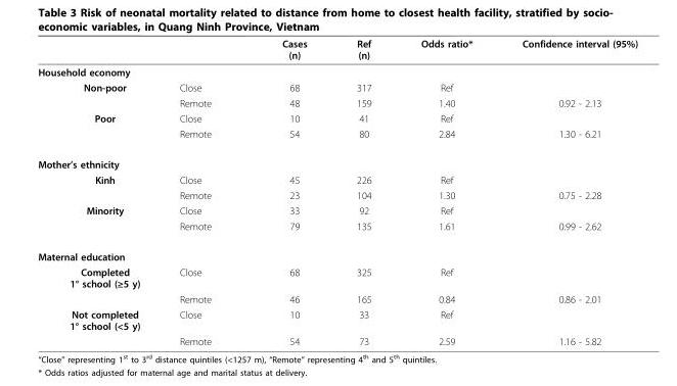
<table><thead><tr><td></td><td></td><td>Cases (n)</td><td>Ref (n)</td><td>Odds ratio*</td><td>Confidence interval (95%)</td></tr></thead><tbody><tr><td colspan="6">Household economy</td></tr><tr><td rowspan="2">Non-poor</td><td>Close</td><td>68</td><td>317</td><td>Ref</td><td></td></tr><tr><td>Remote</td><td>48</td><td>159</td><td>1.40</td><td>0.92 - 2.13</td></tr><tr><td rowspan="2">Poor</td><td>Close</td><td>10</td><td>41</td><td>Ref</td><td></td></tr><tr><td>Remote</td><td>54</td><td>80</td><td>2.84</td><td>1.30 - 6.21</td></tr><tr><td colspan="6">Mother’s ethnicity</td></tr><tr><td rowspan="2">Kinh</td><td>Close</td><td>45</td><td>226</td><td>Ref</td><td></td></tr><tr><td>Remote</td><td>23</td><td>104</td><td>1.30</td><td>0.75 - 2.28</td></tr><tr><td rowspan="2">Minority</td><td>Close</td><td>33</td><td>92</td><td>Ref</td><td></td></tr><tr><td>Remote</td><td>79</td><td>135</td><td>1.61</td><td>0.99 - 2.62</td></tr><tr><td colspan="6">Maternal education</td></tr><tr><td rowspan="2">Completed 1° school (≥5 y)</td><td>Close</td><td>68</td><td>325</td><td>Ref</td><td></td></tr><tr><td>Remote</td><td>46</td><td>165</td><td>0.84</td><td>0.86 - 2.01</td></tr><tr><td rowspan="2">Not completed 1° school (&lt;5 y)</td><td>Close</td><td>10</td><td>33</td><td>Ref</td><td></td></tr><tr><td>Remote</td><td>54</td><td>73</td><td>2.59</td><td>1.16 - 5.82</td></tr></tbody></table>